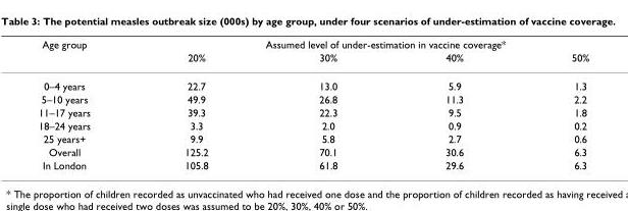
<table><thead><tr><td rowspan="2">Age group</td><td colspan="4">Assumed level of under-estimation in vaccine coverage*</td></tr><tr><td>20%</td><td>30%</td><td>40%</td><td>50%</td></tr></thead><tbody><tr><td>0–4 years</td><td>22.7</td><td>13.0</td><td>5.9</td><td>1.3</td></tr><tr><td>5–10 years</td><td>49.9</td><td>26.8</td><td>11.3</td><td>2.2</td></tr><tr><td>11–17 years</td><td>39.3</td><td>22.3</td><td>9.5</td><td>1.8</td></tr><tr><td>18–24 years</td><td>3.3</td><td>2.0</td><td>0.9</td><td>0.2</td></tr><tr><td>25 years+</td><td>9.9</td><td>5.8</td><td>2.7</td><td>0.6</td></tr><tr><td>Overall</td><td>125.2</td><td>70.1</td><td>30.6</td><td>6.3</td></tr><tr><td>In London</td><td>105.8</td><td>61.8</td><td>29.6</td><td>6.3</td></tr></tbody></table>